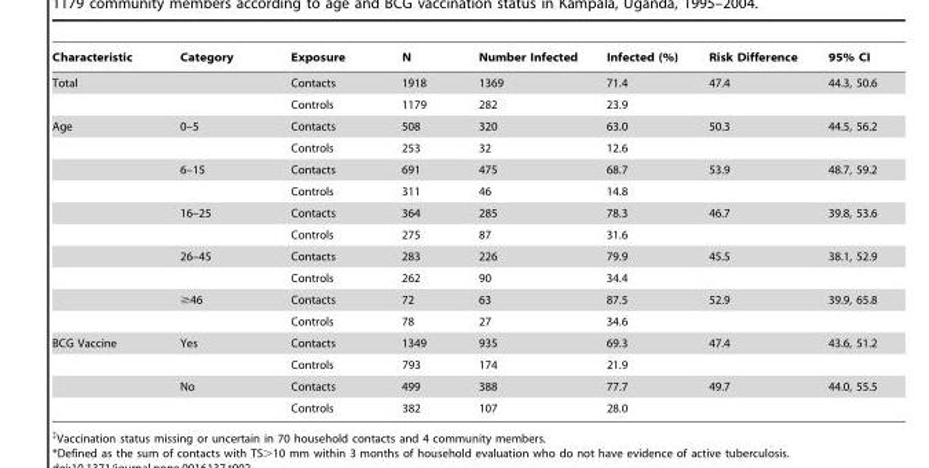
<table><thead><tr><td>Characteristic</td><td>Category</td><td>Exposure</td><td>N</td><td>Number Infected</td><td>Infected (%)</td><td>Risk Difference</td><td>95% CI</td></tr></thead><tbody><tr><td rowspan="2">Total</td><td></td><td>Contacts</td><td>1918</td><td>1369</td><td>71.4</td><td>47.4</td><td>44.3, 50.6</td></tr><tr><td></td><td>Controls</td><td>1179</td><td>282</td><td>23.9</td><td></td><td></td></tr><tr><td rowspan="10">Age</td><td>0–5</td><td>Contacts</td><td>508</td><td>320</td><td>63.0</td><td>50.3</td><td>44.5, 56.2</td></tr><tr><td></td><td>Controls</td><td>253</td><td>32</td><td>12.6</td><td></td><td></td></tr><tr><td>6–15</td><td>Contacts</td><td>691</td><td>475</td><td>68.7</td><td>53.9</td><td>48.7, 59.2</td></tr><tr><td></td><td>Controls</td><td>311</td><td>46</td><td>14.8</td><td></td><td></td></tr><tr><td>16–25</td><td>Contacts</td><td>364</td><td>285</td><td>78.3</td><td>46.7</td><td>39.8, 53.6</td></tr><tr><td></td><td>Controls</td><td>275</td><td>87</td><td>31.6</td><td></td><td></td></tr><tr><td>26–45</td><td>Contacts</td><td>283</td><td>226</td><td>79.9</td><td>45.5</td><td>38.1, 52.9</td></tr><tr><td></td><td>Controls</td><td>262</td><td>90</td><td>34.4</td><td></td><td></td></tr><tr><td>≥46</td><td>Contacts</td><td>72</td><td>63</td><td>87.5</td><td>52.9</td><td>39.9, 65.8</td></tr><tr><td></td><td>Controls</td><td>78</td><td>27</td><td>34.6</td><td></td><td></td></tr><tr><td rowspan="4">BCG Vaccine</td><td>Yes</td><td>Contacts</td><td>1349</td><td>935</td><td>69.3</td><td>47.4</td><td>43.6, 51.2</td></tr><tr><td></td><td>Controls</td><td>793</td><td>174</td><td>21.9</td><td></td><td></td></tr><tr><td>No</td><td>Contacts</td><td>499</td><td>388</td><td>77.7</td><td>49.7</td><td>44.0, 55.5</td></tr><tr><td></td><td>Controls</td><td>382</td><td>107</td><td>28.0</td><td></td><td></td></tr></tbody></table>